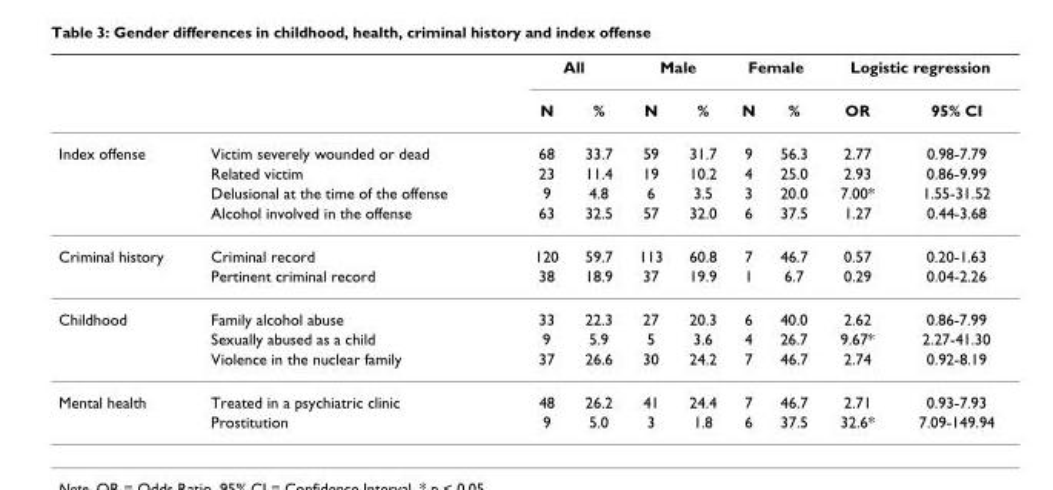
<table><thead><tr><td rowspan="2"></td><td rowspan="2"></td><td colspan="2">All</td><td colspan="2">Male</td><td colspan="2">Female</td><td colspan="2">Logistic regression</td></tr><tr><td>N</td><td>%</td><td>N</td><td>%</td><td>N</td><td>%</td><td>OR</td><td>95% CI</td></tr></thead><tbody><tr><td rowspan="4">Index offense</td><td>Victim severely wounded or dead</td><td>68</td><td>33.7</td><td>59</td><td>31.7</td><td>9</td><td>56.3</td><td>2.77</td><td>0.98-7.79</td></tr><tr><td>Related victim</td><td>23</td><td>11.4</td><td>19</td><td>10.2</td><td>4</td><td>25.0</td><td>2.93</td><td>0.86-9.99</td></tr><tr><td>Delusional at the time of the offense</td><td>9</td><td>4.8</td><td>6</td><td>3.5</td><td>3</td><td>20.0</td><td>7.00*</td><td>1.55-31.52</td></tr><tr><td>Alcohol involved in the offense</td><td>63</td><td>32.5</td><td>57</td><td>32.0</td><td>6</td><td>37.5</td><td>1.27</td><td>0.44-3.68</td></tr><tr><td rowspan="2">Criminal history</td><td>Criminal record</td><td>120</td><td>59.7</td><td>113</td><td>60.8</td><td>7</td><td>46.7</td><td>0.57</td><td>0.20-1.63</td></tr><tr><td>Pertinent criminal record</td><td>38</td><td>18.9</td><td>37</td><td>19.9</td><td>1</td><td>6.7</td><td>0.29</td><td>0.04-2.26</td></tr><tr><td rowspan="3">Childhood</td><td>Family alcohol abuse</td><td>33</td><td>22.3</td><td>27</td><td>20.3</td><td>6</td><td>40.0</td><td>2.62</td><td>0.86-7.99</td></tr><tr><td>Sexually abused as a child</td><td>9</td><td>5.9</td><td>5</td><td>3.6</td><td>4</td><td>26.7</td><td>9.67*</td><td>2.27-41.30</td></tr><tr><td>Violence in the nuclear family</td><td>37</td><td>26.6</td><td>30</td><td>24.2</td><td>7</td><td>46.7</td><td>2.74</td><td>0.92-8.19</td></tr><tr><td rowspan="2">Mental health</td><td>Treated in a psychiatric clinic</td><td>48</td><td>26.2</td><td>41</td><td>24.4</td><td>7</td><td>46.7</td><td>2.71</td><td>0.93-7.93</td></tr><tr><td>Prostitution</td><td>9</td><td>5.0</td><td>3</td><td>1.8</td><td>6</td><td>37.5</td><td>32.6*</td><td>7.09-149.94</td></tr></tbody></table>